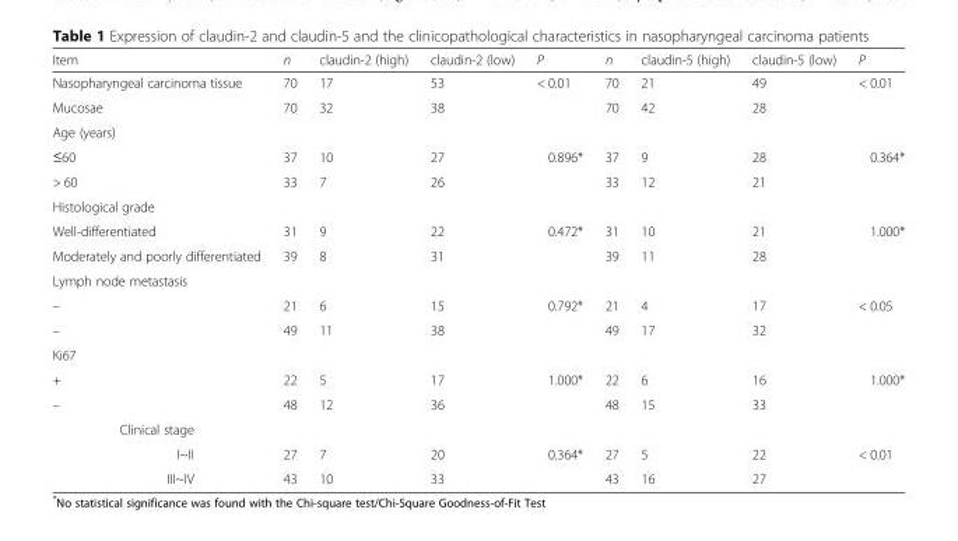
<table><thead><tr><td>Item</td><td>n</td><td>claudin-2 (high)</td><td>claudin-2 (low)</td><td>P</td><td>n</td><td>claudin-5 (high)</td><td>claudin-5 (low)</td><td>P</td></tr></thead><tbody><tr><td>Nasopharyngeal carcinoma tissue</td><td>70</td><td>17</td><td>53</td><td>&lt; 0.01</td><td>70</td><td>21</td><td>49</td><td>&lt; 0.01</td></tr><tr><td>Mucosae</td><td>70</td><td>32</td><td>38</td><td></td><td>70</td><td>42</td><td>28</td><td></td></tr><tr><td colspan="9">Age (years)</td></tr><tr><td>≤60</td><td>37</td><td>10</td><td>27</td><td>0.896*</td><td>37</td><td>9</td><td>28</td><td>0.364*</td></tr><tr><td>&gt; 60</td><td>33</td><td>7</td><td>26</td><td></td><td>33</td><td>12</td><td>21</td><td></td></tr><tr><td colspan="9">Histological grade</td></tr><tr><td>Well-differentiated</td><td>31</td><td>9</td><td>22</td><td>0.472*</td><td>31</td><td>10</td><td>21</td><td>1.000*</td></tr><tr><td>Moderately and poorly differentiated</td><td>39</td><td>8</td><td>31</td><td></td><td>39</td><td>11</td><td>28</td><td></td></tr><tr><td colspan="9">Lymph node metastasis</td></tr><tr><td>–</td><td>21</td><td>6</td><td>15</td><td>0.792*</td><td>21</td><td>4</td><td>17</td><td>&lt; 0.05</td></tr><tr><td>–</td><td>49</td><td>11</td><td>38</td><td></td><td>49</td><td>17</td><td>32</td><td></td></tr><tr><td colspan="9">Ki67</td></tr><tr><td>+</td><td>22</td><td>5</td><td>17</td><td>1.000*</td><td>22</td><td>6</td><td>16</td><td>1.000*</td></tr><tr><td>–</td><td>48</td><td>12</td><td>36</td><td></td><td>48</td><td>15</td><td>33</td><td></td></tr><tr><td colspan="9">Clinical stage</td></tr><tr><td>I~II</td><td>27</td><td>7</td><td>20</td><td>0.364*</td><td>27</td><td>5</td><td>22</td><td>&lt; 0.01</td></tr><tr><td>III~IV</td><td>43</td><td>10</td><td>33</td><td></td><td>43</td><td>16</td><td>27</td><td></td></tr></tbody></table>